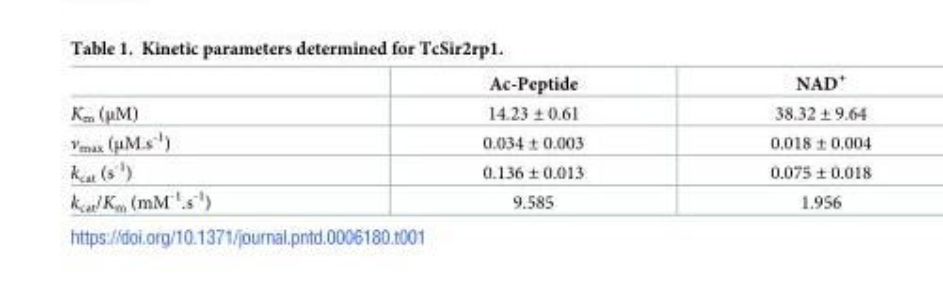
<table><thead><tr><td></td><td>Ac-Peptide</td><td>NAD<sup>+</sup></td></tr></thead><tbody><tr><td>K<sub>m</sub> (μM)</td><td>14.23 ± 0.61</td><td>38.32 ± 9.64</td></tr><tr><td>v<sub>max</sub> (μM.s<sup>-1</sup>)</td><td>0.034 ± 0.003</td><td>0.018 ± 0.004</td></tr><tr><td>k<sub>cat</sub> (s<sup>-1</sup>)</td><td>0.136 ± 0.013</td><td>0.075 ± 0.018</td></tr><tr><td>k<sub>cat</sub>/K<sub>m</sub> (mM<sup>-1</sup>.s<sup>-1</sup>)</td><td>9.585</td><td>1.956</td></tr></tbody></table>